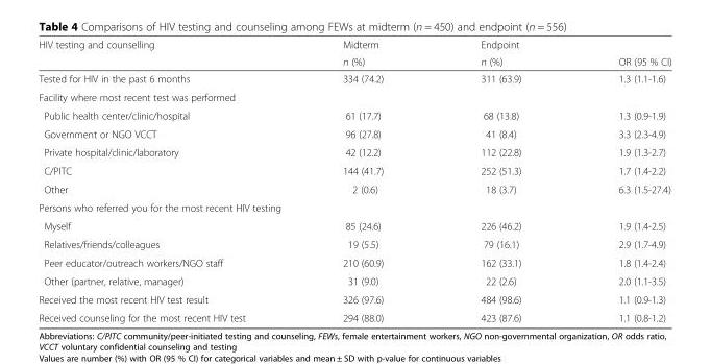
<table><thead><tr><td rowspan="2">HIV testing and counselling</td><td rowspan="2">Midterm n (%)</td><td rowspan="2">Endpoint n (%)</td><td rowspan="2">OR (95 % CI)</td></tr><tr></tr></thead><tbody><tr><td>Tested for HIV in the past 6 months</td><td>334 (74.2)</td><td>311 (63.9)</td><td>1.3 (1.1-1.6)</td></tr><tr><td colspan="4">Facility where most recent test was performed</td></tr><tr><td>Public health center/clinic/hospital</td><td>61 (17.7)</td><td>68 (13.8)</td><td>1.3 (0.9-1.9)</td></tr><tr><td>Government or NGO VCCT</td><td>96 (27.8)</td><td>41 (8.4)</td><td>3.3 (2.3-4.9)</td></tr><tr><td>Private hospital/clinic/laboratory</td><td>42 (12.2)</td><td>112 (22.8)</td><td>1.9 (1.3-2.7)</td></tr><tr><td>C/PITC</td><td>144 (41.7)</td><td>252 (51.3)</td><td>1.7 (1.4-2.2)</td></tr><tr><td>Other</td><td>2 (0.6)</td><td>18 (3.7)</td><td>6.3 (1.5-27.4)</td></tr><tr><td colspan="4">Persons who referred you for the most recent HIV testing</td></tr><tr><td>Myself</td><td>85 (24.6)</td><td>226 (46.2)</td><td>1.9 (1.4-2.5)</td></tr><tr><td>Relatives/friends/colleagues</td><td>19 (5.5)</td><td>79 (16.1)</td><td>2.9 (1.7-4.9)</td></tr><tr><td>Peer educator/outreach workers/NGO staff</td><td>210 (60.9)</td><td>162 (33.1)</td><td>1.8 (1.4-2.4)</td></tr><tr><td>Other (partner, relative, manager)</td><td>31 (9.0)</td><td>22 (2.6)</td><td>2.0 (1.1-3.5)</td></tr><tr><td>Received the most recent HIV test result</td><td>326 (97.6)</td><td>484 (98.6)</td><td>1.1 (0.9-1.3)</td></tr><tr><td>Received counseling for the most recent HIV test</td><td>294 (88.0)</td><td>423 (87.6)</td><td>1.1 (0.8-1.2)</td></tr></tbody></table>